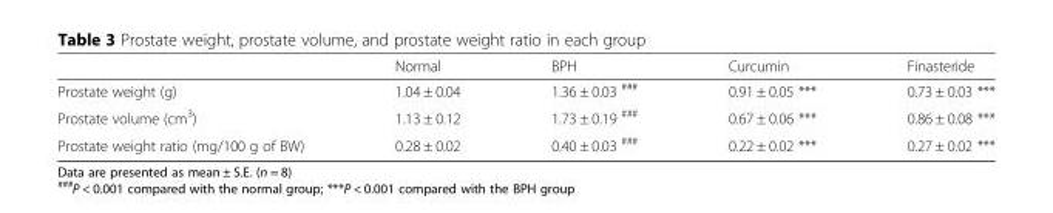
<table><thead><tr><td></td><td>Normal</td><td>BPH</td><td>Curcumin</td><td>Finasteride</td></tr></thead><tbody><tr><td>Prostate weight (g)</td><td>1.04 ± 0.04</td><td>1.36 ± 0.03 <sup>###</sup></td><td>0.91 ± 0.05 ***</td><td>0.73 ± 0.03 ***</td></tr><tr><td>Prostate volume (cm<sup>3</sup>)</td><td>1.13 ± 0.12</td><td>1.73 ± 0.19 <sup>###</sup></td><td>0.67 ± 0.06 ***</td><td>0.86 ± 0.08 ***</td></tr><tr><td>Prostate weight ratio (mg/100 g of BW)</td><td>0.28 ± 0.02</td><td>0.40 ± 0.03 <sup>###</sup></td><td>0.22 ± 0.02 ***</td><td>0.27 ± 0.02 ***</td></tr></tbody></table>